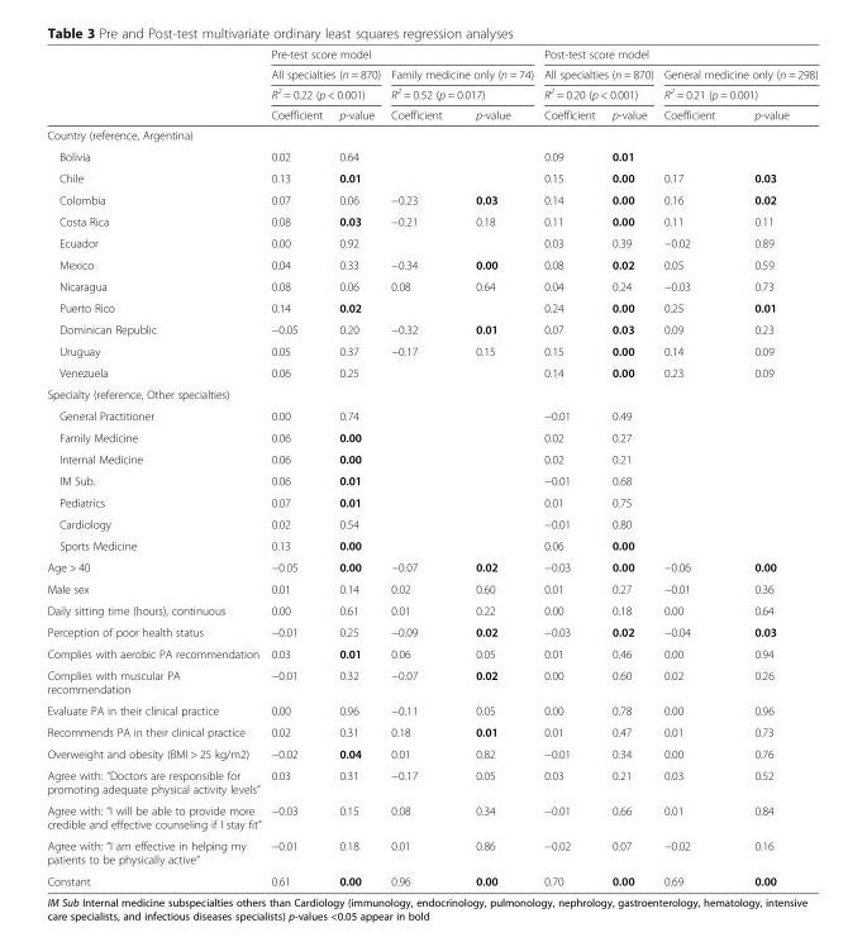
<table><thead><tr><td rowspan="4"></td><td colspan="4">Pre-test score model</td><td colspan="4">Post-test score model</td></tr><tr><td rowspan="2" colspan="2">All specialties (n = 870) R<sup>2</sup> = 0.22 (p &lt; 0.001)</td><td rowspan="2" colspan="2">Family medicine only (n = 74) R<sup>2</sup> = 0.52 (p = 0.017)</td><td rowspan="2" colspan="2">All specialties (n = 870) R<sup>2</sup> = 0.20 (p &lt; 0.001)</td><td rowspan="2" colspan="2">General medicine only (n = 298) R<sup>2</sup> = 0.21 (p = 0.001)</td></tr><tr></tr><tr><td>Coefficient</td><td>p-value</td><td>Coefficient</td><td>p-value</td><td>Coefficient</td><td>p-value</td><td>Coefficient</td><td>p-value</td></tr></thead><tbody><tr><td colspan="9">Country (reference, Argentina)</td></tr><tr><td>Bolivia</td><td>0.02</td><td>0.64</td><td></td><td></td><td>0.09</td><td>0.01</td><td></td><td></td></tr><tr><td>Chile</td><td>0.13</td><td>0.01</td><td></td><td></td><td>0.15</td><td>0.00</td><td>0.17</td><td>0.03</td></tr><tr><td>Colombia</td><td>0.07</td><td>0.06</td><td>−0.23</td><td>0.03</td><td>0.14</td><td>0.00</td><td>0.16</td><td>0.02</td></tr><tr><td>Costa Rica</td><td>0.08</td><td>0.03</td><td>−0.21</td><td>0.18</td><td>0.11</td><td>0.00</td><td>0.11</td><td>0.11</td></tr><tr><td>Ecuador</td><td>0.00</td><td>0.92</td><td></td><td></td><td>0.03</td><td>0.39</td><td>−0.02</td><td>0.89</td></tr><tr><td>Mexico</td><td>0.04</td><td>0.33</td><td>−0.34</td><td>0.00</td><td>0.08</td><td>0.02</td><td>0.05</td><td>0.59</td></tr><tr><td>Nicaragua</td><td>0.08</td><td>0.06</td><td>0.08</td><td>0.64</td><td>0.04</td><td>0.24</td><td>−0.03</td><td>0.73</td></tr><tr><td>Puerto Rico</td><td>0.14</td><td>0.02</td><td></td><td></td><td>0.24</td><td>0.00</td><td>0.25</td><td>0.01</td></tr><tr><td>Dominican Republic</td><td>−0.05</td><td>0.20</td><td>−0.32</td><td>0.01</td><td>0.07</td><td>0.03</td><td>0.09</td><td>0.23</td></tr><tr><td>Uruguay</td><td>0.05</td><td>0.37</td><td>−0.17</td><td>0.15</td><td>0.15</td><td>0.00</td><td>0.14</td><td>0.09</td></tr><tr><td>Venezuela</td><td>0.06</td><td>0.25</td><td></td><td></td><td>0.14</td><td>0.00</td><td>0.23</td><td>0.09</td></tr><tr><td colspan="9">Specialty (reference, Other specialties)</td></tr><tr><td>General Practitioner</td><td>0.00</td><td>0.74</td><td></td><td></td><td>−0.01</td><td>0.49</td><td></td><td></td></tr><tr><td>Family Medicine</td><td>0.06</td><td>0.00</td><td></td><td></td><td>0.02</td><td>0.27</td><td></td><td></td></tr><tr><td>Internal Medicine</td><td>0.06</td><td>0.00</td><td></td><td></td><td>0.02</td><td>0.21</td><td></td><td></td></tr><tr><td>IM Sub.</td><td>0.06</td><td>0.01</td><td></td><td></td><td>−0.01</td><td>0.68</td><td></td><td></td></tr><tr><td>Pediatrics</td><td>0.07</td><td>0.01</td><td></td><td></td><td>0.01</td><td>0.75</td><td></td><td></td></tr><tr><td>Cardiology</td><td>0.02</td><td>0.54</td><td></td><td></td><td>−0.01</td><td>0.80</td><td></td><td></td></tr><tr><td>Sports Medicine</td><td>0.13</td><td>0.00</td><td></td><td></td><td>0.06</td><td>0.00</td><td></td><td></td></tr><tr><td>Age &gt; 40</td><td>−0.05</td><td>0.00</td><td>−0.07</td><td>0.02</td><td>−0.03</td><td>0.00</td><td>−0.06</td><td>0.00</td></tr><tr><td>Male sex</td><td>0.01</td><td>0.14</td><td>0.02</td><td>0.60</td><td>0.01</td><td>0.27</td><td>−0.01</td><td>0.36</td></tr><tr><td>Daily sitting time (hours), continuous</td><td>0.00</td><td>0.61</td><td>0.01</td><td>0.22</td><td>0.00</td><td>0.18</td><td>0.00</td><td>0.64</td></tr><tr><td>Perception of poor health status</td><td>−0.01</td><td>0.25</td><td>−0.09</td><td>0.02</td><td>−0.03</td><td>0.02</td><td>−0.04</td><td>0.03</td></tr><tr><td>Complies with aerobic PA recommendation</td><td>0.03</td><td>0.01</td><td>0.06</td><td>0.05</td><td>0.01</td><td>0.46</td><td>0.00</td><td>0.94</td></tr><tr><td>Complies with muscular PA recommendation</td><td>−0.01</td><td>0.32</td><td>−0.07</td><td>0.02</td><td>0.00</td><td>0.60</td><td>0.02</td><td>0.26</td></tr><tr><td>Evaluate PA in their clinical practice</td><td>0.00</td><td>0.96</td><td>−0.11</td><td>0.05</td><td>0.00</td><td>0.78</td><td>0.00</td><td>0.96</td></tr><tr><td>Recommends PA in their clinical practice</td><td>0.02</td><td>0.31</td><td>0.18</td><td>0.01</td><td>0.01</td><td>0.47</td><td>0.01</td><td>0.73</td></tr><tr><td>Overweight and obesity (BMI &gt; 25 kg/m2)</td><td>−0.02</td><td>0.04</td><td>0.01</td><td>0.82</td><td>−0.01</td><td>0.34</td><td>0.00</td><td>0.76</td></tr><tr><td>Agree with: “Doctors are responsible for promoting adequate physical activity levels”</td><td>0.03</td><td>0.31</td><td>−0.17</td><td>0.05</td><td>0.03</td><td>0.21</td><td>0.03</td><td>0.52</td></tr><tr><td>Agree with: “I will be able to provide more credible and effective counseling if I stay fit”</td><td>−0.03</td><td>0.15</td><td>0.08</td><td>0.34</td><td>−0.01</td><td>0.66</td><td>0.01</td><td>0.84</td></tr><tr><td>Agree with: “I am effective in helping my patients to be physically active”</td><td>−0.01</td><td>0.18</td><td>0.01</td><td>0.86</td><td>−0.02</td><td>0.07</td><td>−0.02</td><td>0.16</td></tr><tr><td>Constant</td><td>0.61</td><td>0.00</td><td>0.96</td><td>0.00</td><td>0.70</td><td>0.00</td><td>0.69</td><td>0.00</td></tr></tbody></table>